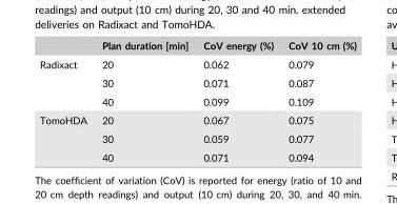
<table><thead><tr><td></td><td>Plan duration [min]</td><td>CoV energy (%)</td><td>CoV 10 cm (%)</td></tr></thead><tbody><tr><td rowspan="3">Radixact</td><td>20</td><td>0.062</td><td>0.079</td></tr><tr><td>30</td><td>0.071</td><td>0.087</td></tr><tr><td>40</td><td>0.099</td><td>0.109</td></tr><tr><td rowspan="3">TomoHDA</td><td>20</td><td>0.067</td><td>0.075</td></tr><tr><td>30</td><td>0.059</td><td>0.077</td></tr><tr><td>40</td><td>0.071</td><td>0.094</td></tr></tbody></table>